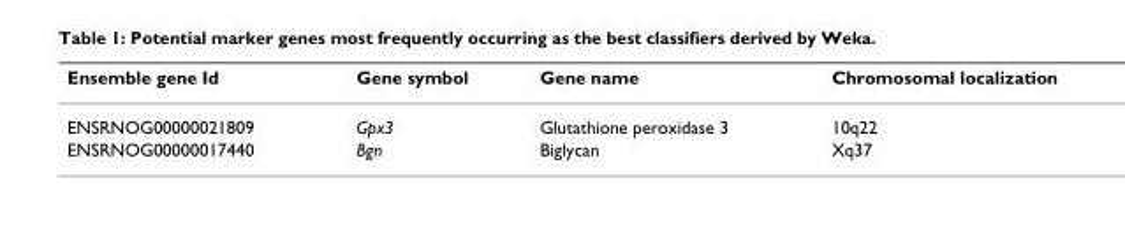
<table><thead><tr><td>Ensemble gene Id</td><td>Gene symbol</td><td>Gene name</td><td>Chromosomal localization</td></tr></thead><tbody><tr><td>ENSRNOG00000021809</td><td>Gpx3</td><td>Glutathione peroxidase 3</td><td>10q22</td></tr><tr><td>ENSRNOG00000017440</td><td>Bgn</td><td>Biglycan</td><td>Xq37</td></tr></tbody></table>